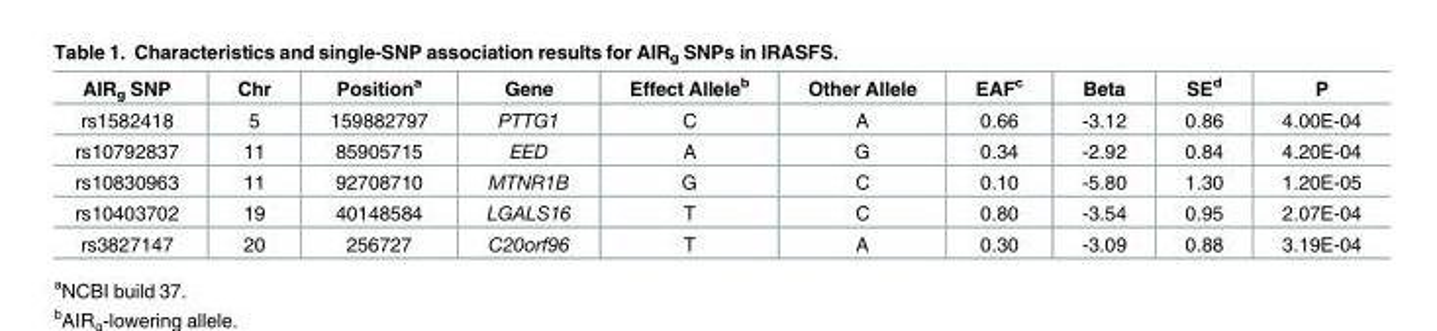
<table><thead><tr><td>AIR<sub>g</sub> SNP</td><td>Chr</td><td>Position<sup>a</sup></td><td>Gene</td><td>Effect Allele<sup>b</sup></td><td>Other Allele</td><td>EAF<sup>c</sup></td><td>Beta</td><td>SE<sup>d</sup></td><td>P</td></tr></thead><tbody><tr><td>rs1582418</td><td>5</td><td>159882797</td><td>PTTG1</td><td>C</td><td>A</td><td>0.66</td><td>-3.12</td><td>0.86</td><td>4.00E-04</td></tr><tr><td>rs10792837</td><td>11</td><td>85905715</td><td>EED</td><td>A</td><td>G</td><td>0.34</td><td>-2.92</td><td>0.84</td><td>4.20E-04</td></tr><tr><td>rs10830963</td><td>11</td><td>92708710</td><td>MTNR1B</td><td>G</td><td>C</td><td>0.10</td><td>-5.80</td><td>1.30</td><td>1.20E-05</td></tr><tr><td>rs10403702</td><td>19</td><td>40148584</td><td>LGALS16</td><td>T</td><td>C</td><td>0.80</td><td>-3.54</td><td>0.95</td><td>2.07E-04</td></tr><tr><td>rs3827147</td><td>20</td><td>256727</td><td>C20orf96</td><td>T</td><td>A</td><td>0.30</td><td>-3.09</td><td>0.88</td><td>3.19E-04</td></tr></tbody></table>